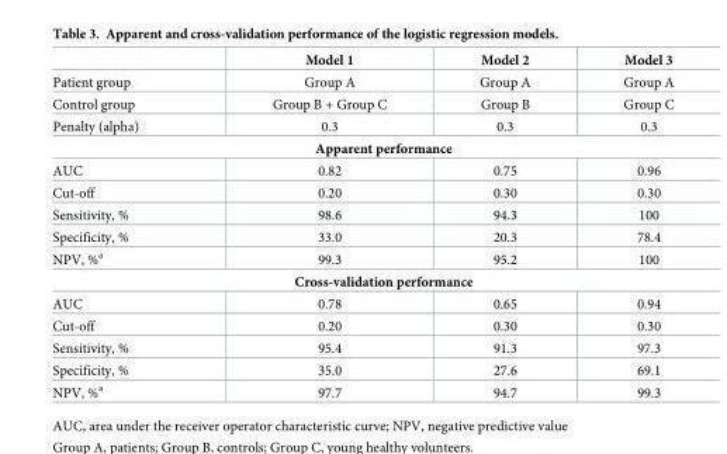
<table><thead><tr><td></td><td>Model 1</td><td>Model 2</td><td>Model 3</td></tr></thead><tbody><tr><td>Patient group</td><td>Group A</td><td>Group A</td><td>Group A</td></tr><tr><td>Control group</td><td>Group B + Group C</td><td>Group B</td><td>Group C</td></tr><tr><td>Penalty (alpha)</td><td>0.3</td><td>0.3</td><td>0.3</td></tr><tr><td colspan="4">Apparent performance</td></tr><tr><td>AUC</td><td>0.82</td><td>0.75</td><td>0.96</td></tr><tr><td>Cut-off</td><td>0.20</td><td>0.30</td><td>0.30</td></tr><tr><td>Sensitivity, %</td><td>98.6</td><td>94.3</td><td>100</td></tr><tr><td>Specificity, %</td><td>33.0</td><td>20.3</td><td>78.4</td></tr><tr><td>NPV, %<sup>a</sup></td><td>99.3</td><td>95.2</td><td>100</td></tr><tr><td colspan="4">Cross-validation performance</td></tr><tr><td>AUC</td><td>0.78</td><td>0.65</td><td>0.94</td></tr><tr><td>Cut-off</td><td>0.20</td><td>0.30</td><td>0.30</td></tr><tr><td>Sensitivity, %</td><td>95.4</td><td>91.3</td><td>97.3</td></tr><tr><td>Specificity, %</td><td>35.0</td><td>27.6</td><td>69.1</td></tr><tr><td>NPV, %<sup>a</sup></td><td>97.7</td><td>94.7</td><td>99.3</td></tr></tbody></table>